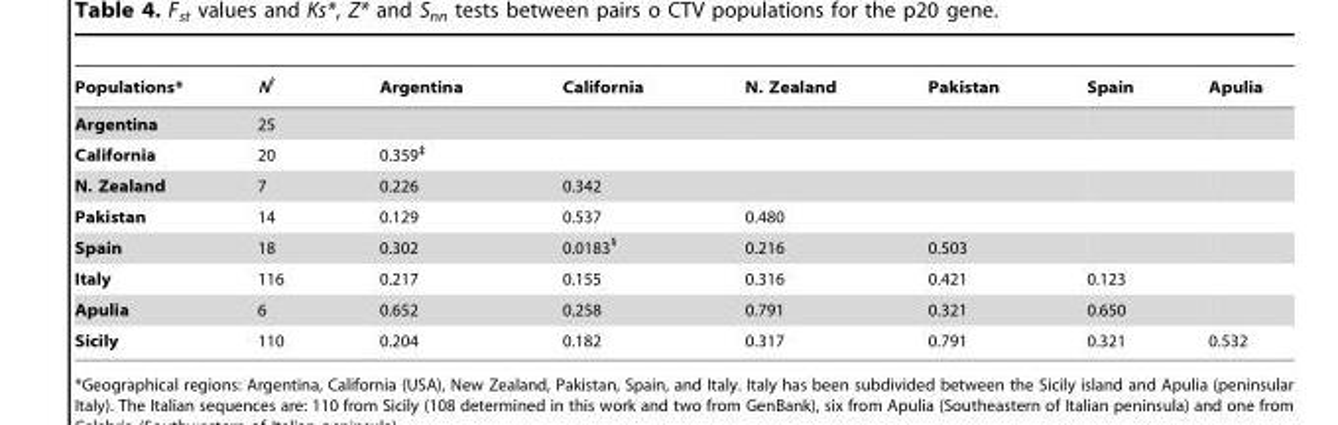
<table><thead><tr><td>Populations*</td><td>N†</td><td>Argentina</td><td>California</td><td>N. Zealand</td><td>Pakistan</td><td>Spain</td><td>Apulia</td></tr></thead><tbody><tr><td>Argentina</td><td>25</td><td></td><td></td><td></td><td></td><td></td><td></td></tr><tr><td>California</td><td>20</td><td>0.359‡</td><td></td><td></td><td></td><td></td><td></td></tr><tr><td>N. Zealand</td><td>7</td><td>0.226</td><td>0.342</td><td></td><td></td><td></td><td></td></tr><tr><td>Pakistan</td><td>14</td><td>0.129</td><td>0.537</td><td>0.480</td><td></td><td></td><td></td></tr><tr><td>Spain</td><td>18</td><td>0.302</td><td>0.0183§</td><td>0.216</td><td>0.503</td><td></td><td></td></tr><tr><td>Italy</td><td>116</td><td>0.217</td><td>0.155</td><td>0.316</td><td>0.421</td><td>0.123</td><td></td></tr><tr><td>Apulia</td><td>6</td><td>0.652</td><td>0.258</td><td>0.791</td><td>0.321</td><td>0.650</td><td></td></tr><tr><td>Sicily</td><td>110</td><td>0.204</td><td>0.182</td><td>0.317</td><td>0.791</td><td>0.321</td><td>0.532</td></tr></tbody></table>